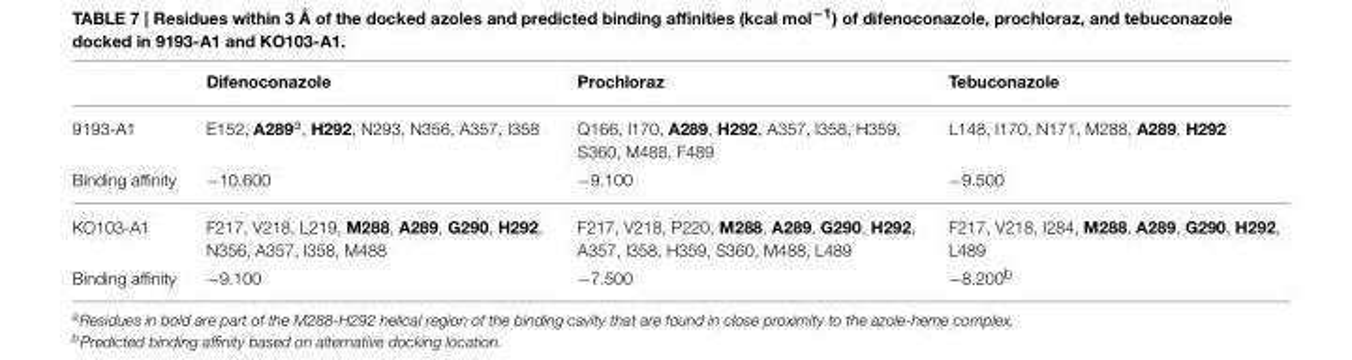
<table><thead><tr><td></td><td>Difenoconazole</td><td>Prochloraz</td><td>Tebuconazole</td></tr></thead><tbody><tr><td>9193-A1</td><td>E152, A289<sup>a</sup>, H292, N293, N356, A357, I358</td><td>Q166, I170, A289, H292, A357, I358, H359, S360, M488, F489</td><td>L148, I170, N171, M288, A289, H292</td></tr><tr><td>Binding affinity</td><td>−10.600</td><td>−9.100</td><td>−9.500</td></tr><tr><td>KO103-A1</td><td>F217, V218, L219, M288, A289, G290, H292, N356, A357, I358, M488</td><td>F217, V218, P220, M288, A289, G290, H292, A357, I358, H359, S360, M488, L489</td><td>F217, V218, I284, M288, A289, G290, H292, L489</td></tr><tr><td>Binding affinity</td><td>−9.100</td><td>−7.500</td><td>−8.200<sup>b</sup></td></tr></tbody></table>